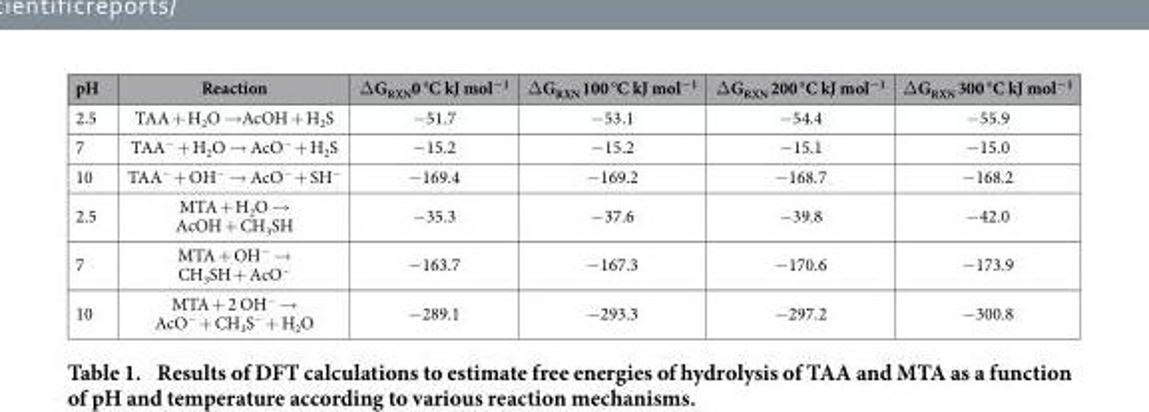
<table><thead><tr><td>pH</td><td>Reaction</td><td>Δ G<sub>RXN</sub>0 °C kJ mol<sup>−1</sup></td><td>Δ G<sub>RXN</sub> 100 °C kJ mol<sup>−1</sup></td><td>Δ G<sub>RXN</sub> 200 °C kJ mol<sup>−1</sup></td><td>Δ G<sub>RXN</sub> 300 °C kJ mol<sup>−1</sup></td></tr></thead><tbody><tr><td>2.5</td><td>TAA + H<sub>2</sub>O → AcOH + H<sub>2</sub>S</td><td>− 51.7</td><td>− 53.1</td><td>− 54.4</td><td>− 55.9</td></tr><tr><td>7</td><td>TAA<sup>−</sup> + H<sub>2</sub>O → AcO<sup>−</sup> + H<sub>2</sub>S</td><td>− 15.2</td><td>− 15.2</td><td>− 15.1</td><td>− 15.0</td></tr><tr><td>10</td><td>TAA<sup>−</sup> + OH<sup>−</sup> → AcO<sup>−</sup> + SH<sup>−</sup></td><td>− 169.4</td><td>− 169.2</td><td>− 168.7</td><td>− 168.2</td></tr><tr><td>2.5</td><td>MTA + H<sub>2</sub>O → AcOH + CH<sub>3</sub>SH</td><td>− 35.3</td><td>− 37.6</td><td>− 39.8</td><td>− 42.0</td></tr><tr><td>7</td><td>MTA + OH<sup>−</sup> → CH<sub>3</sub>SH + AcO<sup>−</sup></td><td>− 163.7</td><td>− 167.3</td><td>− 170.6</td><td>− 173.9</td></tr><tr><td>10</td><td>MTA + 2 OH<sup>−</sup> → AcO<sup>−</sup> + CH<sub>3</sub>S<sup>−</sup> + H<sub>2</sub>O</td><td>− 289.1</td><td>− 293.3</td><td>− 297.2</td><td>− 300.8</td></tr></tbody></table>